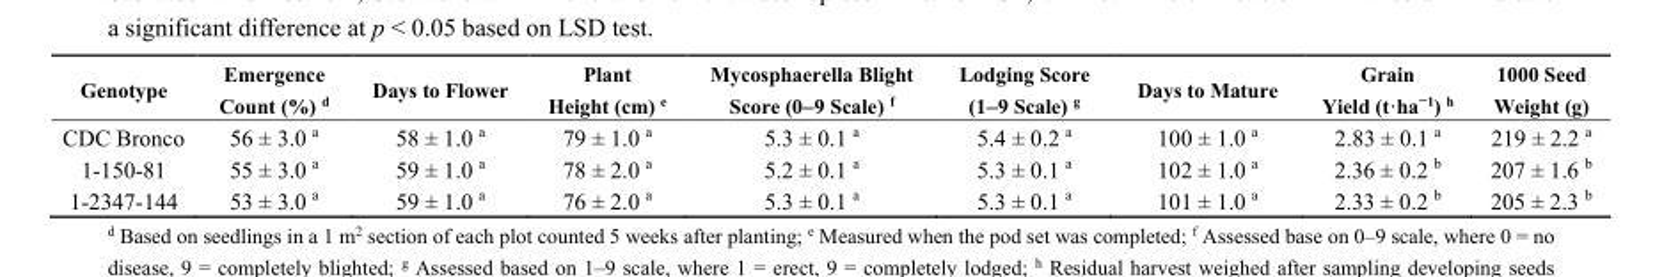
<table><thead><tr><td>Genotype</td><td>Emergence Count (%) <sup>d</sup></td><td>Days to Flower</td><td>Plant Height (cm) <sup>e</sup></td><td>Mycosphaerella Blight Score (0–9 Scale) <sup>f</sup></td><td>Lodging Score (1–9 Scale) <sup>g</sup></td><td>Days to Mature</td><td>Grain Yield (t·ha<sup>−1</sup>) <sup>h</sup></td><td>1000 Seed Weight (g)</td></tr></thead><tbody><tr><td>CDC Bronco</td><td>56 ± 3.0 <sup>a</sup></td><td>58 ± 1.0 <sup>a</sup></td><td>79 ± 1.0 <sup>a</sup></td><td>5.3 ± 0.1 <sup>a</sup></td><td>5.4 ± 0.2 <sup>a</sup></td><td>100 ± 1.0 <sup>a</sup></td><td>2.83 ± 0.1 <sup>a</sup></td><td>219 ± 2.2 <sup>a</sup></td></tr><tr><td>1-150-81</td><td>55 ± 3.0 <sup>a</sup></td><td>59 ± 1.0 <sup>a</sup></td><td>78 ± 2.0 <sup>a</sup></td><td>5.2 ± 0.1 <sup>a</sup></td><td>5.3 ± 0.1 <sup>a</sup></td><td>102 ± 1.0 <sup>a</sup></td><td>2.36 ± 0.2 <sup>b</sup></td><td>207 ± 1.6 <sup>b</sup></td></tr><tr><td>1-2347-144</td><td>53 ± 3.0 <sup>a</sup></td><td>59 ± 1.0 <sup>a</sup></td><td>76 ± 2.0 <sup>a</sup></td><td>5.3 ± 0.1 <sup>a</sup></td><td>5.3 ± 0.1 <sup>a</sup></td><td>101 ± 1.0 <sup>a</sup></td><td>2.33 ± 0.2 <sup>b</sup></td><td>205 ± 2.3 <sup>b</sup></td></tr></tbody></table>